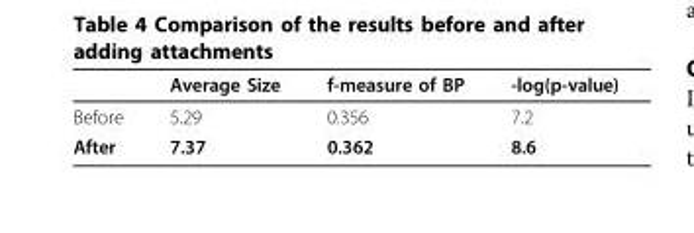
<table><thead><tr><td></td><td>Average Size</td><td>f-measure of BP</td><td>-log(p-value)</td></tr></thead><tbody><tr><td>Before</td><td>5.29</td><td>0.356</td><td>7.2</td></tr><tr><td>After</td><td>7.37</td><td>0.362</td><td>8.6</td></tr></tbody></table>